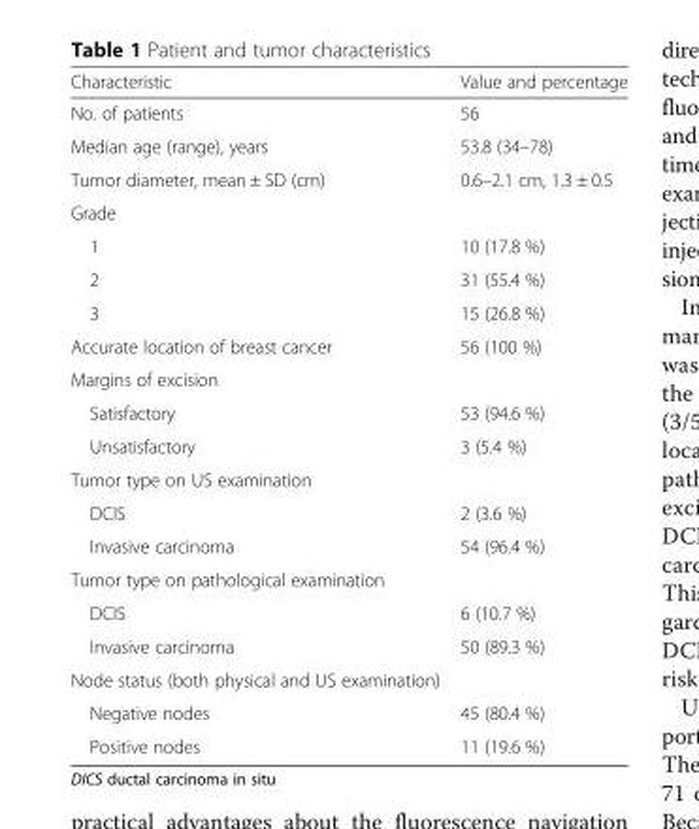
<table><thead><tr><td>Characteristic</td><td>Value and percentage</td></tr></thead><tbody><tr><td>No. of patients</td><td>56</td></tr><tr><td>Median age (range), years</td><td>53.8 (34–78)</td></tr><tr><td>Tumor diameter, mean ± SD (cm)</td><td>0.6–2.1 cm, 1.3 ± 0.5</td></tr><tr><td colspan="2">Grade</td></tr><tr><td>1</td><td>10 (17.8 %)</td></tr><tr><td>2</td><td>31 (55.4 %)</td></tr><tr><td>3</td><td>15 (26.8 %)</td></tr><tr><td>Accurate location of breast cancer</td><td>56 (100 %)</td></tr><tr><td colspan="2">Margins of excision</td></tr><tr><td>Satisfactory</td><td>53 (94.6 %)</td></tr><tr><td>Unsatisfactory</td><td>3 (5.4 %)</td></tr><tr><td colspan="2">Tumor type on US examination</td></tr><tr><td>DCIS</td><td>2 (3.6 %)</td></tr><tr><td>Invasive carcinoma</td><td>54 (96.4 %)</td></tr><tr><td colspan="2">Tumor type on pathological examination</td></tr><tr><td>DCIS</td><td>6 (10.7 %)</td></tr><tr><td>Invasive carcinoma</td><td>50 (89.3 %)</td></tr><tr><td colspan="2">Node status (both physical and US examination)</td></tr><tr><td>Negative nodes</td><td>45 (80.4 %)</td></tr><tr><td>Positive nodes</td><td>11 (19.6 %)</td></tr></tbody></table>